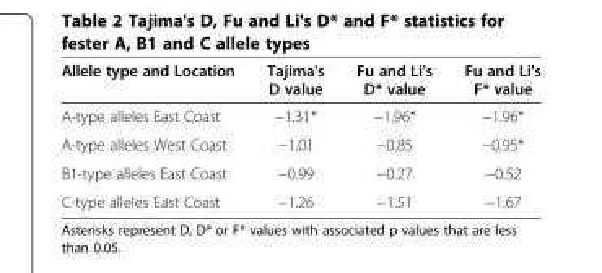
<table><thead><tr><td>Allele type and Location</td><td>Tajima&#x27;s D value</td><td>Fu and Li&#x27;s D* value</td><td>Fu and Li&#x27;s F* value</td></tr></thead><tbody><tr><td>A-type alleles East Coast</td><td>−1.31*</td><td>−1.96*</td><td>−1.96*</td></tr><tr><td>A-type alleles West Coast</td><td>−1.01</td><td>−0.85</td><td>−0.95*</td></tr><tr><td>B1-type alleles East Coast</td><td>−0.99</td><td>−0.27</td><td>−0.52</td></tr><tr><td>C-type alleles East Coast</td><td>−1.26</td><td>−1.51</td><td>−1.67</td></tr></tbody></table>